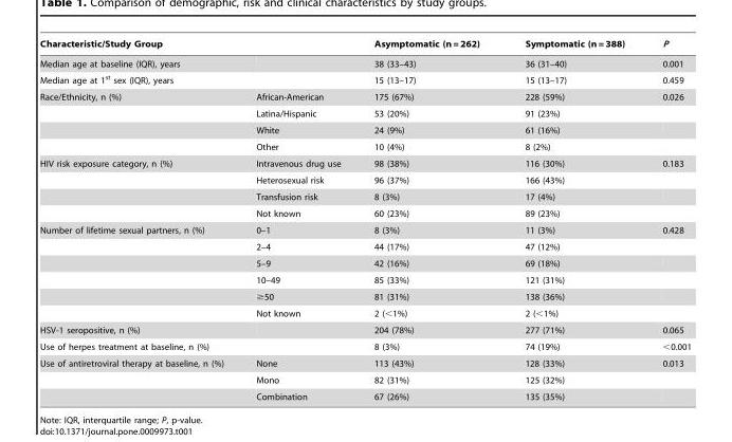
<table><thead><tr><td>Characteristic/Study Group</td><td></td><td>Asymptomatic (n = 262)</td><td>Symptomatic (n = 388)</td><td>P</td></tr></thead><tbody><tr><td>Median age at baseline (IQR), years</td><td></td><td>38 (33–43)</td><td>36 (31–40)</td><td>0.001</td></tr><tr><td>Median age at 1<sup>st</sup> sex (IQR), years</td><td></td><td>15 (13–17)</td><td>15 (13–17)</td><td>0.459</td></tr><tr><td rowspan="4">Race/Ethnicity, n (%)</td><td>African-American</td><td>175 (67%)</td><td>228 (59%)</td><td>0.026</td></tr><tr><td>Latina/Hispanic</td><td>53 (20%)</td><td>91 (23%)</td><td></td></tr><tr><td>White</td><td>24 (9%)</td><td>61 (16%)</td><td></td></tr><tr><td>Other</td><td>10 (4%)</td><td>8 (2%)</td><td></td></tr><tr><td rowspan="4">HIV risk exposure category, n (%)</td><td>Intravenous drug use</td><td>98 (38%)</td><td>116 (30%)</td><td>0.183</td></tr><tr><td>Heterosexual risk</td><td>96 (37%)</td><td>166 (43%)</td><td></td></tr><tr><td>Transfusion risk</td><td>8 (3%)</td><td>17 (4%)</td><td></td></tr><tr><td>Not known</td><td>60 (23%)</td><td>89 (23%)</td><td></td></tr><tr><td rowspan="6">Number of lifetime sexual partners, n (%)</td><td>0–1</td><td>8 (3%)</td><td>11 (3%)</td><td>0.428</td></tr><tr><td>2–4</td><td>44 (17%)</td><td>47 (12%)</td><td></td></tr><tr><td>5–9</td><td>42 (16%)</td><td>69 (18%)</td><td></td></tr><tr><td>10–49</td><td>85 (33%)</td><td>121 (31%)</td><td></td></tr><tr><td>≥50</td><td>81 (31%)</td><td>138 (36%)</td><td></td></tr><tr><td>Not known</td><td>2 (&lt;1%)</td><td>2 (&lt;1%)</td><td></td></tr><tr><td>HSV-1 seropositive, n (%)</td><td></td><td>204 (78%)</td><td>277 (71%)</td><td>0.065</td></tr><tr><td>Use of herpes treatment at baseline, n (%)</td><td></td><td>8 (3%)</td><td>74 (19%)</td><td>&lt;0.001</td></tr><tr><td rowspan="3">Use of antiretroviral therapy at baseline, n (%)</td><td>None</td><td>113 (43%)</td><td>128 (33%)</td><td>0.013</td></tr><tr><td>Mono</td><td>82 (31%)</td><td>125 (32%)</td><td></td></tr><tr><td>Combination</td><td>67 (26%)</td><td>135 (35%)</td><td></td></tr></tbody></table>